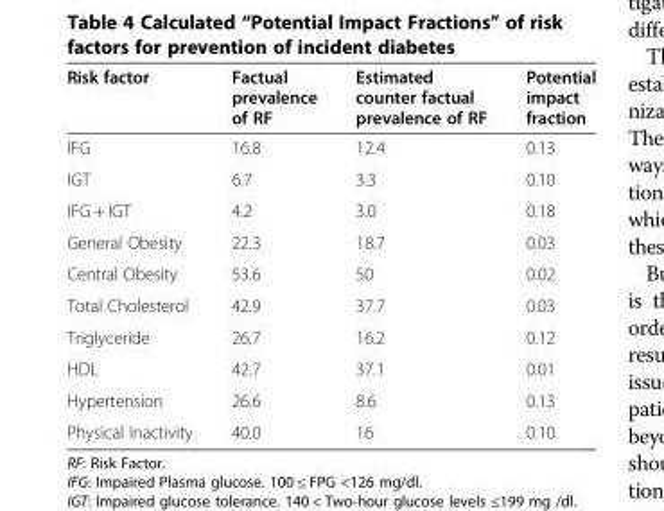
<table><thead><tr><td>Risk factor</td><td>Factual prevalence of RF</td><td>Estimated counter factual prevalence of RF</td><td>Potential impact fraction</td></tr></thead><tbody><tr><td>IFG</td><td>16.8</td><td>12.4</td><td>0.13</td></tr><tr><td>IGT</td><td>6.7</td><td>3.3</td><td>0.10</td></tr><tr><td>IFG + IGT</td><td>4.2</td><td>3.0</td><td>0.18</td></tr><tr><td>General Obesity</td><td>22.3</td><td>18.7</td><td>0.03</td></tr><tr><td>Central Obesity</td><td>53.6</td><td>50</td><td>0.02</td></tr><tr><td>Total Cholesterol</td><td>42.9</td><td>37.7</td><td>0.03</td></tr><tr><td>Triglyceride</td><td>26.7</td><td>16.2</td><td>0.12</td></tr><tr><td>HDL</td><td>42.7</td><td>37.1</td><td>0.01</td></tr><tr><td>Hypertension</td><td>26.6</td><td>8.6</td><td>0.13</td></tr><tr><td>Physical Inactivity</td><td>40.0</td><td>16</td><td>0.10</td></tr></tbody></table>